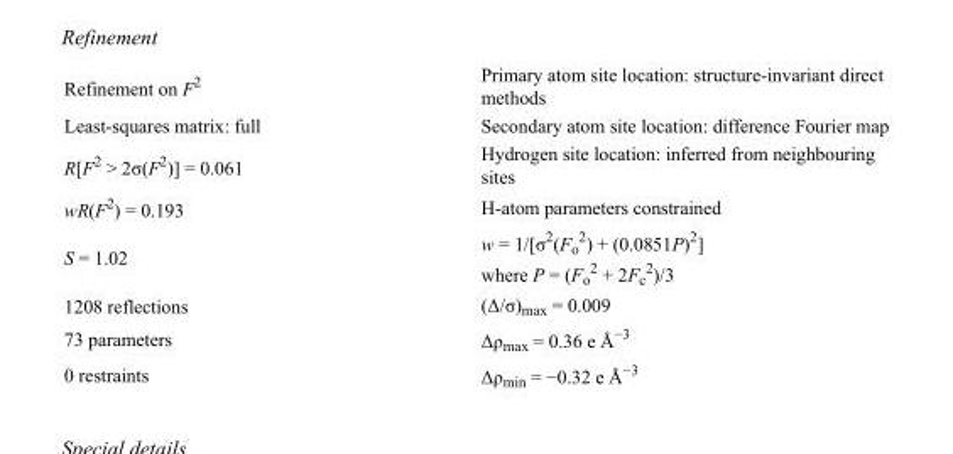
<table><tbody><tr><td>Refinement on F<sup>2</sup></td><td>Primary atom site location: structure-invariant direct methods</td></tr><tr><td>Least-squares matrix: full</td><td>Secondary atom site location: difference Fourier map</td></tr><tr><td>R[F<sup>2</sup> &gt; 2σ(F<sup>2</sup>)] = 0.061</td><td>Hydrogen site location: inferred from neighbouring sites</td></tr><tr><td>wR(F<sup>2</sup>) = 0.193</td><td>H-atom parameters constrained</td></tr><tr><td>S = 1.02</td><td>w = 1/[σ<sup>2</sup>(F<sub>o</sub> <sup>2</sup>) + (0.0851P)<sup>2</sup>] where P = (F<sub>o</sub> <sup>2</sup> + 2F<sub>c</sub> <sup>2</sup>)/3</td></tr><tr><td>1208 reflections</td><td>(Δ/σ)<sub>max</sub> = 0.009</td></tr><tr><td>73 parameters</td><td>Δρ<sub>max</sub> = 0.36 e Å<sup>−3</sup></td></tr><tr><td>0 restraints</td><td>Δρ<sub>min</sub> = −0.32 e Å<sup>−3</sup></td></tr></tbody></table>